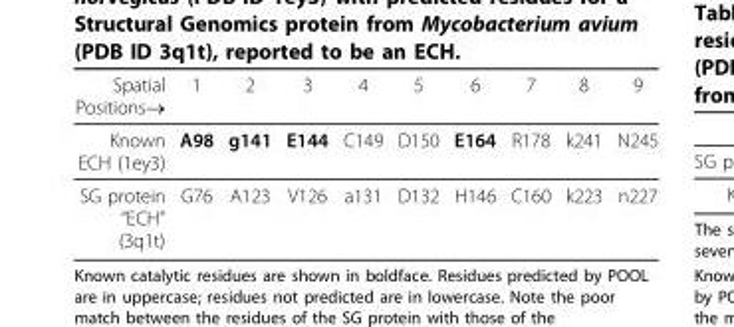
<table><thead><tr><td>Spatial Positions→</td><td>1</td><td>2</td><td>3</td><td>4</td><td>5</td><td>6</td><td>7</td><td>8</td><td>9</td></tr></thead><tbody><tr><td>Known ECH (1ey3)</td><td>A98</td><td>g141</td><td>E144</td><td>C149</td><td>D150</td><td>E164</td><td>R178</td><td>k241</td><td>N245</td></tr><tr><td>SG protein “ECH” (3q1t)</td><td>G76</td><td>A123</td><td>V126</td><td>a131</td><td>D132</td><td>H146</td><td>C160</td><td>k223</td><td>n227</td></tr></tbody></table>